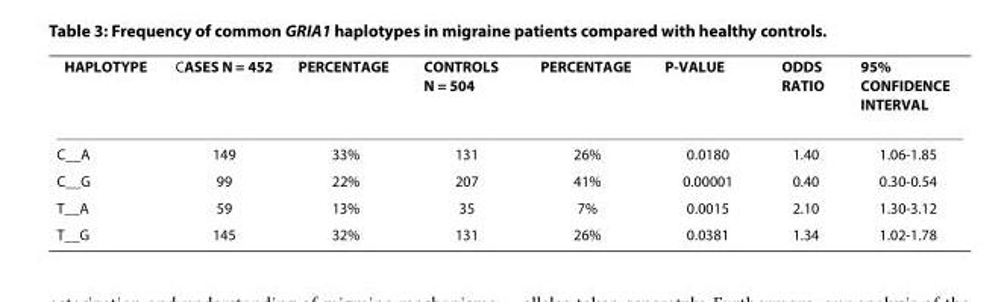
<table><thead><tr><td>HAPLOTYPE</td><td>CASES N = 452</td><td>PERCENTAGE</td><td>CONTROLS N = 504</td><td>PERCENTAGE</td><td>P-VALUE</td><td>ODDS RATIO</td><td>95% CONFIDENCE INTERVAL</td></tr></thead><tbody><tr><td>C__A</td><td>149</td><td>33%</td><td>131</td><td>26%</td><td>0.0180</td><td>1.40</td><td>1.06-1.85</td></tr><tr><td>C__G</td><td>99</td><td>22%</td><td>207</td><td>41%</td><td>0.00001</td><td>0.40</td><td>0.30-0.54</td></tr><tr><td>T__A</td><td>59</td><td>13%</td><td>35</td><td>7%</td><td>0.0015</td><td>2.10</td><td>1.30-3.12</td></tr><tr><td>T__G</td><td>145</td><td>32%</td><td>131</td><td>26%</td><td>0.0381</td><td>1.34</td><td>1.02-1.78</td></tr></tbody></table>